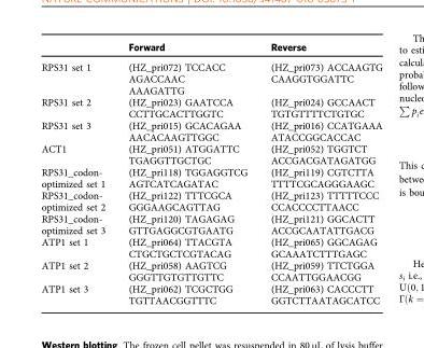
<table><thead><tr><td></td><td>Forward</td><td>Reverse</td></tr></thead><tbody><tr><td>RPS31 set 1</td><td>(HZ_pri072) TCCACC AGACCAAC AAAGATTG</td><td>(HZ_pri073) ACCAAGTG CAAGGTGGATTC</td></tr><tr><td>RPS31 set 2</td><td>(HZ_pri023) GAATCCA CCTTGCACTTGGTC</td><td>(HZ_pri024) GCCAACT TGTGTTTTCTGTGC</td></tr><tr><td>RPS31 set 3</td><td>(HZ_pri015) GCACAGAA AACACAAGTTGGC</td><td>(HZ_pri016) CCATGAAA ATACCGGCACCAC</td></tr><tr><td>ACT1</td><td>(HZ_pri051) ATGGATTC TGAGGTTGCTGC</td><td>(HZ_pri052) TGGTCT ACCGACGATAGATGG</td></tr><tr><td>RPS31_codon- optimized set 1</td><td>(HZ_pri118) TGGAGGTCG AGTCATCAGATAC</td><td>(HZ_pri119) CGTCTTA TTTTCGCAGGGAAGC</td></tr><tr><td>RPS31_codon- optimized set 2</td><td>(HZ_pri122) TTTCGCA GGGAAGCAGTTAG</td><td>(HZ_pri123) TTTTTCCC CCACCCCTTAACC</td></tr><tr><td>RPS31_codon- optimized set 3</td><td>(HZ_pri120) TAGAGAG GTTGAGGCGTGAATG</td><td>(HZ_pri121) GGCACTT ACCGCAATATTGACG</td></tr><tr><td>ATP1 set 1</td><td>(HZ_pri064) TTACGTA CTGCTGCTCGTACAG</td><td>(HZ_pri065) GGCAGAG GCAAATCTTTGAGC</td></tr><tr><td>ATP1 set 2</td><td>(HZ_pri058) AAGTCG GGGTTGTGTTGTTC</td><td>(HZ_pri059) TTCTGGA CCAATTGGAACGG</td></tr><tr><td>ATP1 set 3</td><td>(HZ_pri062) TCGCTGG TGTTAACGGTTTC</td><td>(HZ_pri063) CACCCTT GGTCTTAATAGCATCC</td></tr></tbody></table>